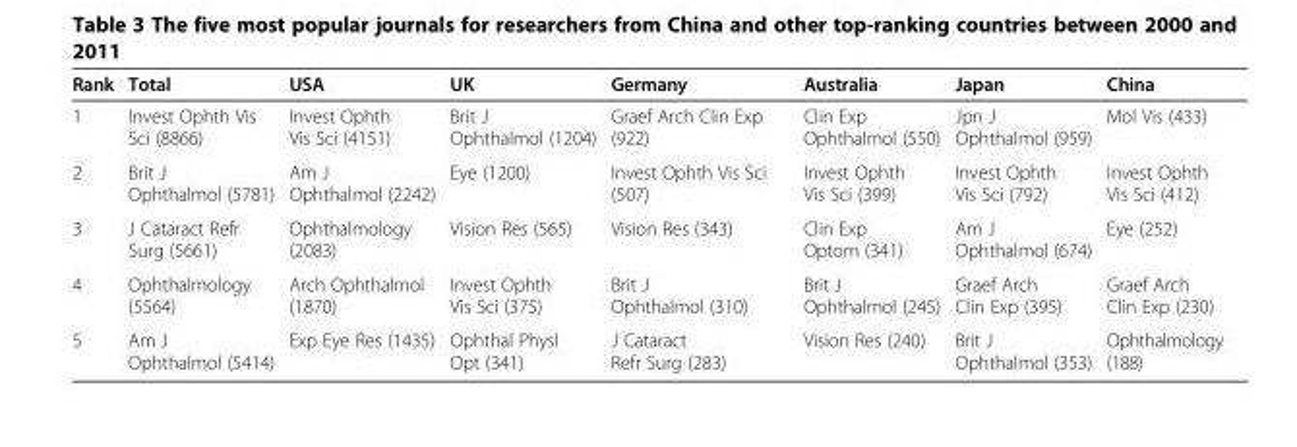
<table><thead><tr><td>Rank</td><td>Total</td><td>USA</td><td>UK</td><td>Germany</td><td>Australia</td><td>Japan</td><td>China</td></tr></thead><tbody><tr><td>1</td><td>Invest Ophth Vis Sci (8866)</td><td>Invest Ophth Vis Sci (4151)</td><td>Brit J Ophthalmol (1204)</td><td>Graef Arch Clin Exp (922)</td><td>Clin Exp Ophthalmol (550)</td><td>Jpn J Ophthalmol (959)</td><td>Mol Vis (433)</td></tr><tr><td>2</td><td>Brit J Ophthalmol (5781)</td><td>Am J Ophthalmol (2242)</td><td>Eye (1200)</td><td>Invest Ophth Vis Sci (507)</td><td>Invest Ophth Vis Sci (399)</td><td>Invest Ophth Vis Sci (792)</td><td>Invest Ophth Vis Sci (412)</td></tr><tr><td>3</td><td>J Cataract Refr Surg (5661)</td><td>Ophthalmology (2083)</td><td>Vision Res (565)</td><td>Vision Res (343)</td><td>Clin Exp Optom (341)</td><td>Am J Ophthalmol (674)</td><td>Eye (252)</td></tr><tr><td>4</td><td>Ophthalmology (5564)</td><td>Arch Ophthalmol (1870)</td><td>Invest Ophth Vis Sci (375)</td><td>Brit J Ophthalmol (310)</td><td>Brit J Ophthalmol (245)</td><td>Graef Arch Clin Exp (395)</td><td>Graef Arch Clin Exp (230)</td></tr><tr><td>5</td><td>Am J Ophthalmol (5414)</td><td>Exp Eye Res (1435)</td><td>Ophthal Physl Opt (341)</td><td>J Cataract Refr Surg (283)</td><td>Vision Res (240)</td><td>Brit J Ophthalmol (353)</td><td>Ophthalmology (188)</td></tr></tbody></table>